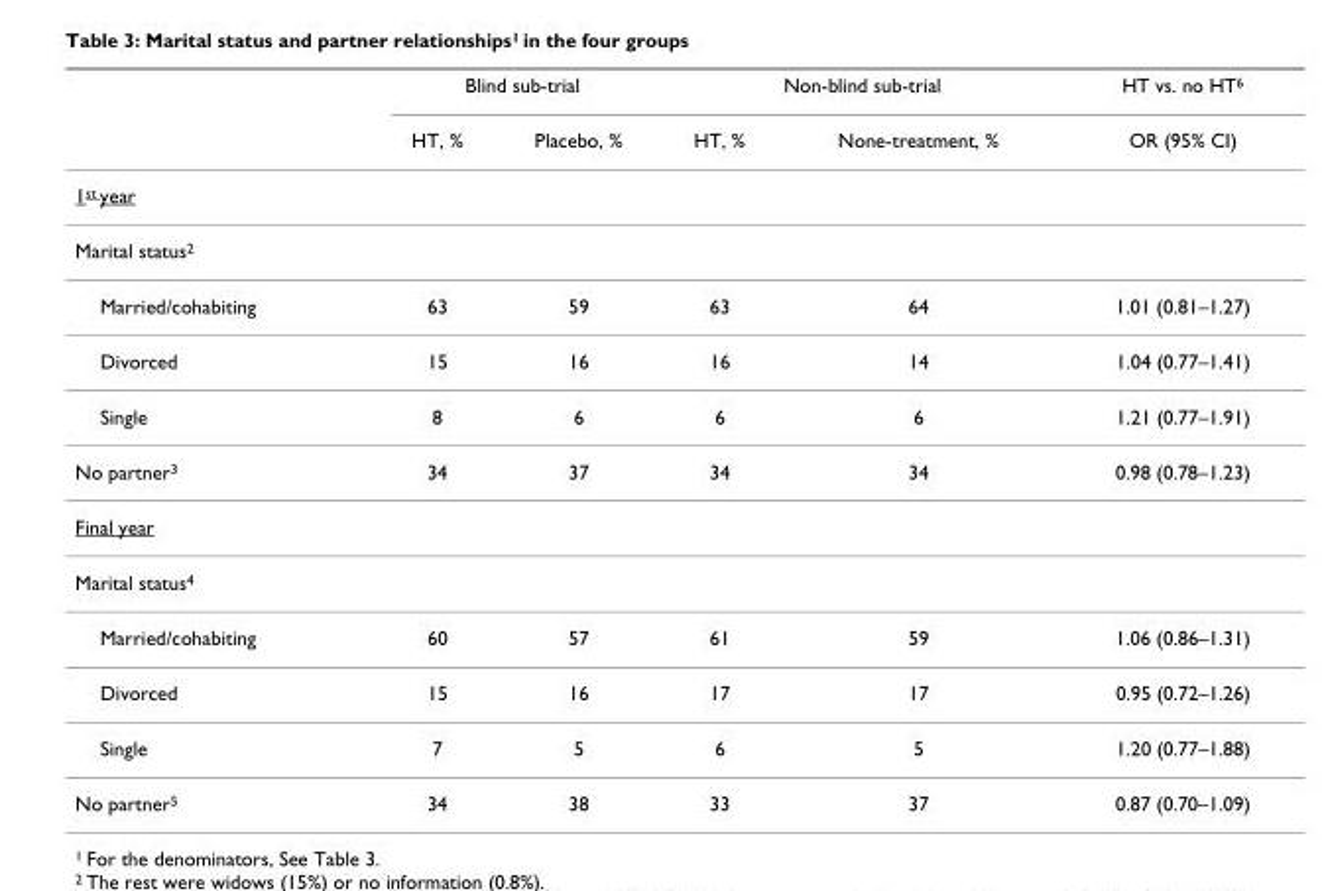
<table><thead><tr><td rowspan="2"></td><td colspan="2">Blind sub-trial</td><td colspan="2">Non-blind sub-trial</td><td rowspan="2">HT vs. no HT<sup>6</sup> OR (95% CI)</td></tr><tr><td>HT, %</td><td>Placebo, %</td><td>HT, %</td><td>None-treatment, %</td></tr></thead><tbody><tr><td colspan="6">1<sup>st</sup> year</td></tr><tr><td colspan="6">Marital status<sup>2</sup></td></tr><tr><td>Married/cohabiting</td><td>63</td><td>59</td><td>63</td><td>64</td><td>1.01 (0.81–1.27)</td></tr><tr><td>Divorced</td><td>15</td><td>16</td><td>16</td><td>14</td><td>1.04 (0.77–1.41)</td></tr><tr><td>Single</td><td>8</td><td>6</td><td>6</td><td>6</td><td>1.21 (0.77–1.91)</td></tr><tr><td>No partner<sup>3</sup></td><td>34</td><td>37</td><td>34</td><td>34</td><td>0.98 (0.78–1.23)</td></tr><tr><td colspan="6">Final year</td></tr><tr><td colspan="6">Marital status<sup>4</sup></td></tr><tr><td>Married/cohabiting</td><td>60</td><td>57</td><td>61</td><td>59</td><td>1.06 (0.86–1.31)</td></tr><tr><td>Divorced</td><td>15</td><td>16</td><td>17</td><td>17</td><td>0.95 (0.72–1.26)</td></tr><tr><td>Single</td><td>7</td><td>5</td><td>6</td><td>5</td><td>1.20 (0.77–1.88)</td></tr><tr><td>No partner<sup>5</sup></td><td>34</td><td>38</td><td>33</td><td>37</td><td>0.87 (0.70–1.09)</td></tr></tbody></table>